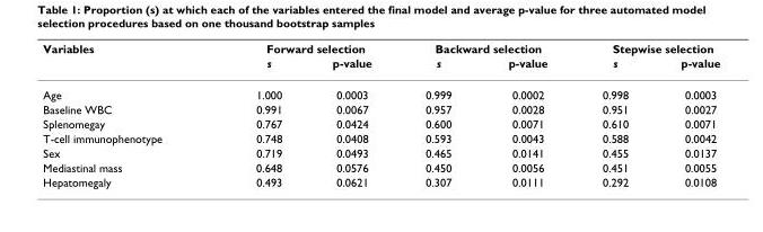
<table><thead><tr><td rowspan="2">Variables</td><td colspan="2">Forward selection</td><td colspan="2">Backward selection</td><td colspan="2">Stepwise selection</td></tr><tr><td>s</td><td>p-value</td><td>s</td><td>p-value</td><td>s</td><td>p-value</td></tr></thead><tbody><tr><td>Age</td><td>1.000</td><td>0.0003</td><td>0.999</td><td>0.0002</td><td>0.998</td><td>0.0003</td></tr><tr><td>Baseline WBC</td><td>0.991</td><td>0.0067</td><td>0.957</td><td>0.0028</td><td>0.951</td><td>0.0027</td></tr><tr><td>Splenomegay</td><td>0.767</td><td>0.0424</td><td>0.600</td><td>0.0071</td><td>0.610</td><td>0.0071</td></tr><tr><td>T-cell immunophenotype</td><td>0.748</td><td>0.0408</td><td>0.593</td><td>0.0043</td><td>0.588</td><td>0.0042</td></tr><tr><td>Sex</td><td>0.719</td><td>0.0493</td><td>0.465</td><td>0.0141</td><td>0.455</td><td>0.0137</td></tr><tr><td>Mediastinal mass</td><td>0.648</td><td>0.0576</td><td>0.450</td><td>0.0056</td><td>0.451</td><td>0.0055</td></tr><tr><td>Hepatomegaly</td><td>0.493</td><td>0.0621</td><td>0.307</td><td>0.0111</td><td>0.292</td><td>0.0108</td></tr></tbody></table>